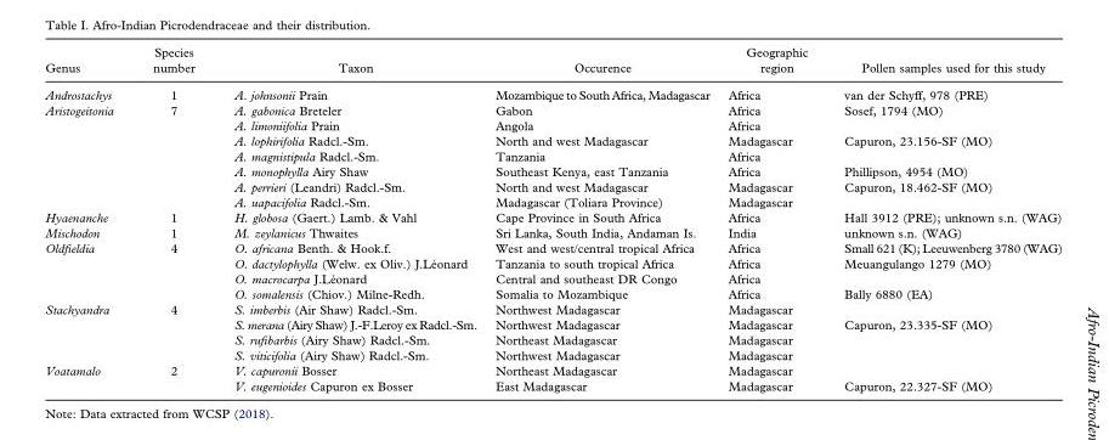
<table><thead><tr><td>Genus</td><td>Species number</td><td>Taxon</td><td>Occurence</td><td>Geographic region</td><td>Pollen samples used for this study</td></tr></thead><tbody><tr><td>Androstachys</td><td>1</td><td>A. johnsonii Prain</td><td>Mozambique to South Africa, Madagascar</td><td>Africa</td><td>van der Schyff, 978 (PRE)</td></tr><tr><td rowspan="7">Aristogeitonia</td><td>7</td><td>A. gabonica Breteler</td><td>Gabon</td><td>Africa</td><td>Sosef, 1794 (MO)</td></tr><tr><td></td><td>A. limoniifolia Prain</td><td>Angola</td><td>Africa</td><td></td></tr><tr><td></td><td>A. lophirifolia Radcl.-Sm.</td><td>North and west Madagascar</td><td>Madagascar</td><td>Capuron, 23.156-SF (MO)</td></tr><tr><td></td><td>A. magnistipula Radcl.-Sm.</td><td>Tanzania</td><td>Africa</td><td></td></tr><tr><td></td><td>A. monophylla Airy Shaw</td><td>Southeast Kenya, east Tanzania</td><td>Africa</td><td>Phillipson, 4954 (MO)</td></tr><tr><td></td><td>A. perrieri (Leandri) Radcl.-Sm.</td><td>North and west Madagascar</td><td>Madagascar</td><td>Capuron, 18.462-SF (MO)</td></tr><tr><td></td><td>A. uapacifolia Radcl.-Sm.</td><td>Madagascar (Toliara Province)</td><td>Madagascar</td><td></td></tr><tr><td>Hyaenanche</td><td>1</td><td>H. globosa (Gaert.) Lamb. &amp; Vahl</td><td>Cape Province in South Africa</td><td>Africa</td><td>Hall 3912 (PRE); unknown s.n. (WAG)</td></tr><tr><td>Mischodon</td><td>1</td><td>M. zeylanicus Thwaites</td><td>Sri Lanka, South India, Andaman Is.</td><td>India</td><td>unknown s.n. (WAG)</td></tr><tr><td rowspan="4">Oldfieldia</td><td>4</td><td>O. africana Benth. &amp; Hook.f.</td><td>West and west/central tropical Africa</td><td>Africa</td><td>Small 621 (K); Leeuwenberg 3780 (WAG)</td></tr><tr><td></td><td>O. dactylophylla (Welw. ex Oliv.) J.Léonard</td><td>Tanzania to south tropical Africa</td><td>Africa</td><td>Meuangulango 1279 (MO)</td></tr><tr><td></td><td>O. macrocarpa J.Léonard</td><td>Central and southeast DR Congo</td><td>Africa</td><td></td></tr><tr><td></td><td>O. somalensis (Chiov.) Milne-Redh.</td><td>Somalia to Mozambique</td><td>Africa</td><td>Bally 6880 (EA)</td></tr><tr><td rowspan="4">Stachyandra</td><td>4</td><td>S. imberbis (Air Shaw) Radcl.-Sm.</td><td>Northwest Madagascar</td><td>Madagascar</td><td></td></tr><tr><td></td><td>S. merana (Airy Shaw) J.-F.Leroy ex Radcl.-Sm.</td><td>Northwest Madagascar</td><td>Madagascar</td><td>Capuron, 23.335-SF (MO)</td></tr><tr><td></td><td>S. rufibarbis (Airy Shaw) Radcl.-Sm.</td><td>Northeast Madagascar</td><td>Madagascar</td><td></td></tr><tr><td></td><td>S. viticifolia (Airy Shaw) Radcl.-Sm.</td><td>Northwest Madagascar</td><td>Madagascar</td><td></td></tr><tr><td rowspan="2">Voatamalo</td><td>2</td><td>V. capuronii Bosser</td><td>Northeast Madagascar</td><td>Madagascar</td><td></td></tr><tr><td></td><td>V. eugenioides Capuron ex Bosser</td><td>East Madagascar</td><td>Madagascar</td><td>Capuron, 22.327-SF (MO)</td></tr></tbody></table>